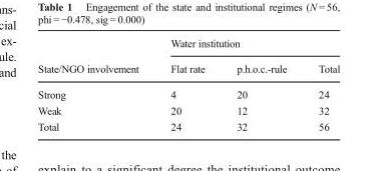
<table><thead><tr><td rowspan="2">State/NGO involvement</td><td colspan="3">Water institution</td></tr><tr><td>Flat rate</td><td>p.h.o.c.-rule</td><td>Total</td></tr></thead><tbody><tr><td>Strong</td><td>4</td><td>20</td><td>24</td></tr><tr><td>Weak</td><td>20</td><td>12</td><td>32</td></tr><tr><td>Total</td><td>24</td><td>32</td><td>56</td></tr></tbody></table>